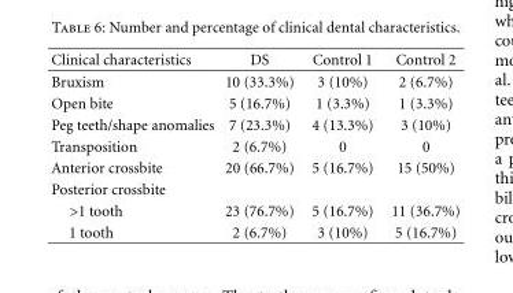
<table><thead><tr><td>Clinical characteristics</td><td>DS</td><td>Control 1</td><td>Control 2</td></tr></thead><tbody><tr><td>Bruxism</td><td>10 (33.3%)</td><td>3 (10%)</td><td>2 (6.7%)</td></tr><tr><td>Open bite</td><td>5 (16.7%)</td><td>1 (3.3%)</td><td>1 (3.3%)</td></tr><tr><td>Peg teeth/shape anomalies</td><td>7 (23.3%)</td><td>4 (13.3%)</td><td>3 (10%)</td></tr><tr><td>Transposition</td><td>2 (6.7%)</td><td>0</td><td>0</td></tr><tr><td>Anterior crossbite</td><td>20 (66.7%)</td><td>5 (16.7%)</td><td>15 (50%)</td></tr><tr><td colspan="4">Posterior crossbite</td></tr><tr><td>&gt;1 tooth</td><td>23 (76.7%)</td><td>5 (16.7%)</td><td>11 (36.7%)</td></tr><tr><td>1 tooth</td><td>2 (6.7%)</td><td>3 (10%)</td><td>5 (16.7%)</td></tr></tbody></table>